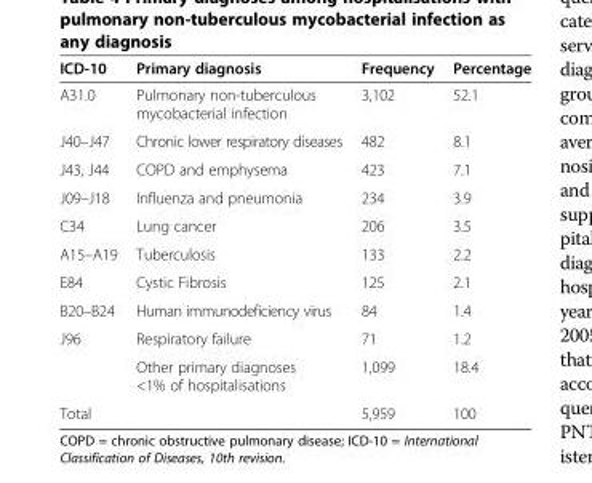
<table><thead><tr><td>ICD-10</td><td>Primary diagnosis</td><td>Frequency</td><td>Percentage</td></tr></thead><tbody><tr><td>A31.0</td><td>Pulmonary non-tuberculous mycobacterial infection</td><td>3,102</td><td>52.1</td></tr><tr><td>J40–J47</td><td>Chronic lower respiratory diseases</td><td>482</td><td>8.1</td></tr><tr><td>J43, J44</td><td>COPD and emphysema</td><td>423</td><td>7.1</td></tr><tr><td>J09–J18</td><td>Influenza and pneumonia</td><td>234</td><td>3.9</td></tr><tr><td>C34</td><td>Lung cancer</td><td>206</td><td>3.5</td></tr><tr><td>A15–A19</td><td>Tuberculosis</td><td>133</td><td>2.2</td></tr><tr><td>E84</td><td>Cystic Fibrosis</td><td>125</td><td>2.1</td></tr><tr><td>B20–B24</td><td>Human immunodeficiency virus</td><td>84</td><td>1.4</td></tr><tr><td rowspan="2">J96</td><td>Respiratory failure</td><td>71</td><td>1.2</td></tr><tr><td>Other primary diagnoses &lt;1% of hospitalisations</td><td>1,099</td><td>18.4</td></tr><tr><td>Total</td><td></td><td>5,959</td><td>100</td></tr></tbody></table>